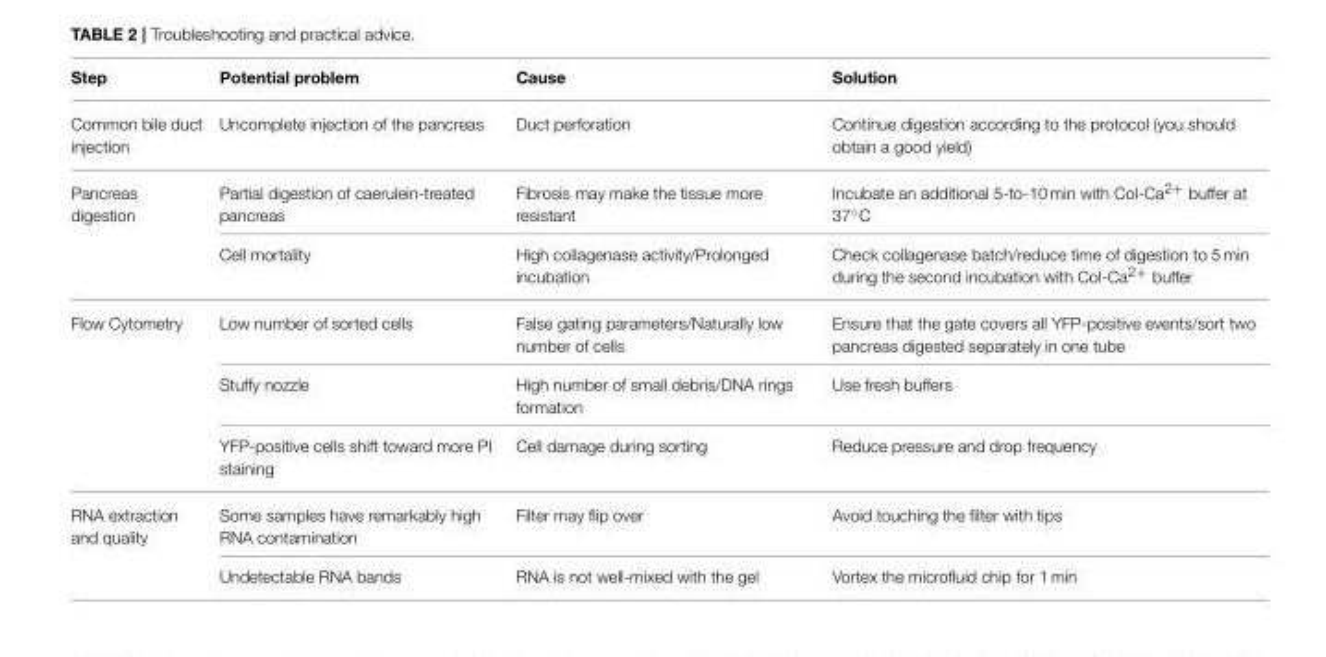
<table><thead><tr><td>Step</td><td>Potential problem</td><td>Cause</td><td>Solution</td></tr></thead><tbody><tr><td>Common bile duct injection</td><td>Uncomplete injection of the pancreas</td><td>Duct perforation</td><td>Continue digestion according to the protocol (you should obtain a good yield)</td></tr><tr><td rowspan="2">Pancreas digestion</td><td>Partial digestion of caerulein-treated pancreas</td><td>Fibrosis may make the tissue more resistant</td><td>Incubate an additional 5-to-10 min with Col-Ca2+ buffer at 37◦C</td></tr><tr><td>Cell mortality</td><td>High collagenase activity/Prolonged incubation</td><td>Check collagenase batch/reduce time of digestion to 5 min during the second incubation with Col-Ca<sup>2+</sup> buffer</td></tr><tr><td rowspan="3">Flow Cytometry</td><td>Low number of sorted cells</td><td>False gating parameters/Naturally low number of cells</td><td>Ensure that the gate covers all YFP-positive events/sort two pancreas digested separately in one tube</td></tr><tr><td>Stuffy nozzle</td><td>High number of small debris/DNA rings formation</td><td>Use fresh buffers</td></tr><tr><td>YFP-positive cells shift toward more PI staining</td><td>Cell damage during sorting</td><td>Reduce pressure and drop frequency</td></tr><tr><td rowspan="2">RNA extraction and quality</td><td>Some samples have remarkably high RNA contamination</td><td>Filter may flip over</td><td>Avoid touching the filter with tips</td></tr><tr><td>Undetectable RNA bands</td><td>RNA is not well-mixed with the gel</td><td>Vortex the microfluid chip for 1 min</td></tr></tbody></table>